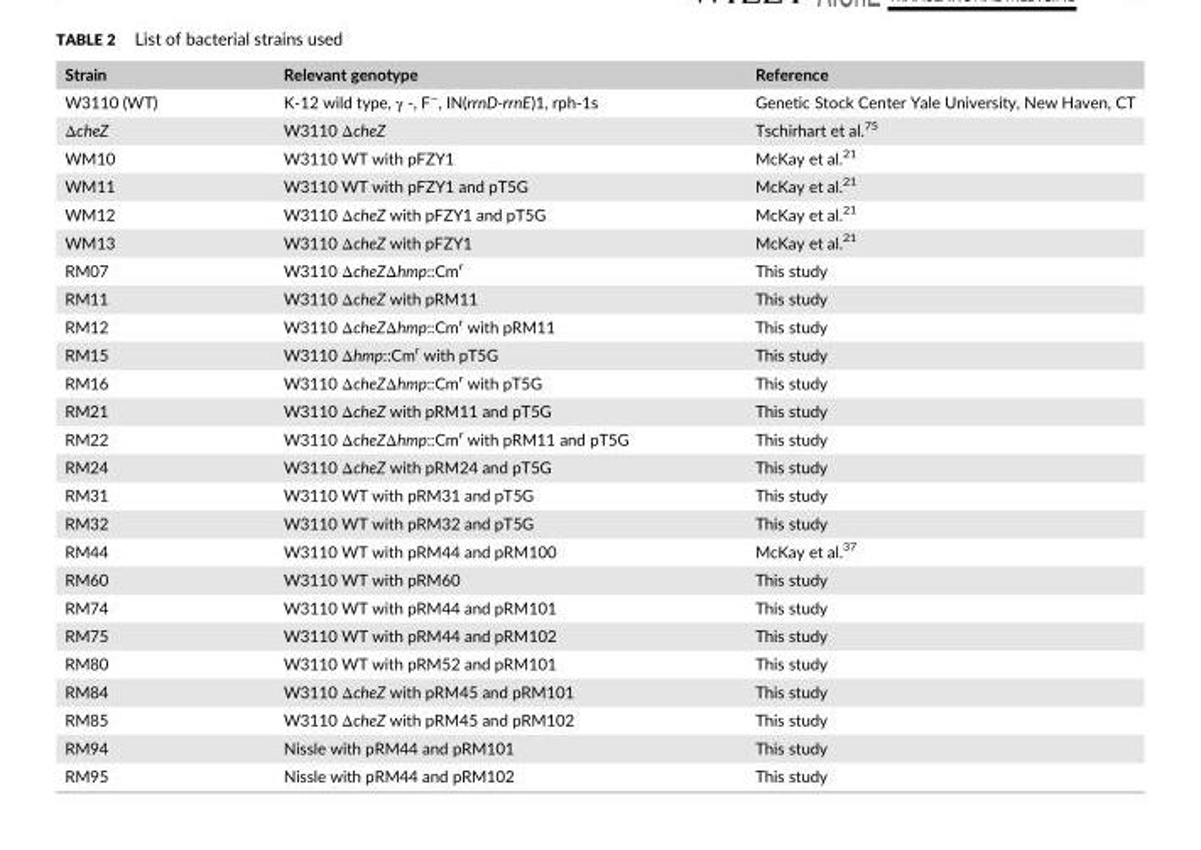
<table><thead><tr><td>Strain</td><td>Relevant genotype</td><td>Reference</td></tr></thead><tbody><tr><td>W3110 (WT)</td><td>K-12 wild type, γ -, F<sup>−</sup>, IN(rrnD-rrnE)1, rph-1s</td><td>Genetic Stock Center Yale University, New Haven, CT</td></tr><tr><td>ΔcheZ</td><td>W3110 ΔcheZ</td><td>Tschirhart et al.<sup>75</sup></td></tr><tr><td>WM10</td><td>W3110 WT with pFZY1</td><td>McKay et al.<sup>21</sup></td></tr><tr><td>WM11</td><td>W3110 WT with pFZY1 and pT5G</td><td>McKay et al.<sup>21</sup></td></tr><tr><td>WM12</td><td>W3110 ΔcheZ with pFZY1 and pT5G</td><td>McKay et al.<sup>21</sup></td></tr><tr><td>WM13</td><td>W3110 ΔcheZ with pFZY1</td><td>McKay et al.<sup>21</sup></td></tr><tr><td>RM07</td><td>W3110 ΔcheZΔhmp::Cm<sup>r</sup></td><td>This study</td></tr><tr><td>RM11</td><td>W3110 ΔcheZ with pRM11</td><td>This study</td></tr><tr><td>RM12</td><td>W3110 ΔcheZΔhmp::Cm<sup>r</sup> with pRM11</td><td>This study</td></tr><tr><td>RM15</td><td>W3110 Δhmp::Cm<sup>r</sup> with pT5G</td><td>This study</td></tr><tr><td>RM16</td><td>W3110 ΔcheZΔhmp::Cm<sup>r</sup> with pT5G</td><td>This study</td></tr><tr><td>RM21</td><td>W3110 ΔcheZ with pRM11 and pT5G</td><td>This study</td></tr><tr><td>RM22</td><td>W3110 ΔcheZΔhmp::Cm<sup>r</sup> with pRM11 and pT5G</td><td>This study</td></tr><tr><td>RM24</td><td>W3110 ΔcheZ with pRM24 and pT5G</td><td>This study</td></tr><tr><td>RM31</td><td>W3110 WT with pRM31 and pT5G</td><td>This study</td></tr><tr><td>RM32</td><td>W3110 WT with pRM32 and pT5G</td><td>This study</td></tr><tr><td>RM44</td><td>W3110 WT with pRM44 and pRM100</td><td>McKay et al.<sup>37</sup></td></tr><tr><td>RM60</td><td>W3110 WT with pRM60</td><td>This study</td></tr><tr><td>RM74</td><td>W3110 WT with pRM44 and pRM101</td><td>This study</td></tr><tr><td>RM75</td><td>W3110 WT with pRM44 and pRM102</td><td>This study</td></tr><tr><td>RM80</td><td>W3110 WT with pRM52 and pRM101</td><td>This study</td></tr><tr><td>RM84</td><td>W3110 ΔcheZ with pRM45 and pRM101</td><td>This study</td></tr><tr><td>RM85</td><td>W3110 ΔcheZ with pRM45 and pRM102</td><td>This study</td></tr><tr><td>RM94</td><td>Nissle with pRM44 and pRM101</td><td>This study</td></tr><tr><td>RM95</td><td>Nissle with pRM44 and pRM102</td><td>This study</td></tr></tbody></table>